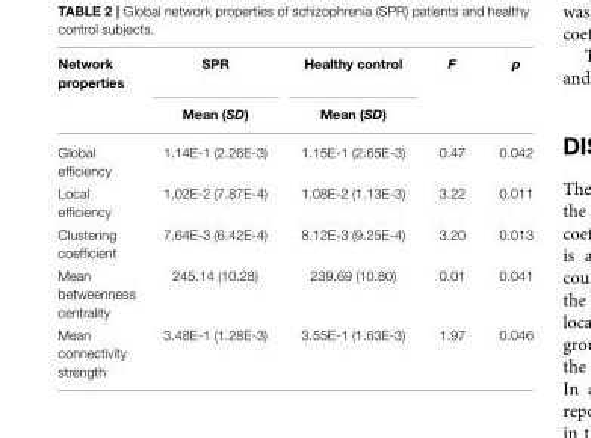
<table><thead><tr><td rowspan="2">Network properties</td><td rowspan="2">SPR Mean (SD)</td><td rowspan="2">Healthy control Mean (SD)</td><td rowspan="2">F</td><td rowspan="2">p</td></tr><tr></tr></thead><tbody><tr><td>Global efficiency</td><td>1.14E-1 (2.26E-3)</td><td>1.15E-1 (2.65E-3)</td><td>0.47</td><td>0.042</td></tr><tr><td>Local efficiency</td><td>1.02E-2 (7.87E-4)</td><td>1.08E-2 (1.13E-3)</td><td>3.22</td><td>0.011</td></tr><tr><td>Clustering coefficient</td><td>7.64E-3 (6.42E-4)</td><td>8.12E-3 (9.25E-4)</td><td>3.20</td><td>0.013</td></tr><tr><td>Mean betweenness centrality</td><td>245.14 (10.28)</td><td>239.69 (10.80)</td><td>0.01</td><td>0.041</td></tr><tr><td>Mean connectivity strength</td><td>3.48E-1 (1.28E-3)</td><td>3.55E-1 (1.63E-3)</td><td>1.97</td><td>0.046</td></tr></tbody></table>